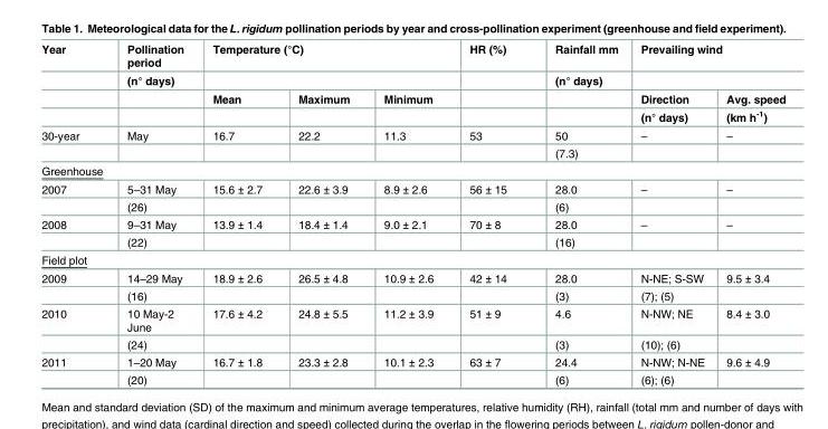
<table><thead><tr><td rowspan="4">Year</td><td rowspan="4">Pollination period (n° days)</td><td colspan="3">Temperature (°C)</td><td rowspan="4">HR (%)</td><td rowspan="4">Rainfall mm (n° days)</td><td colspan="2">Prevailing wind</td></tr><tr><td rowspan="3">Mean</td><td rowspan="3">Maximum</td><td rowspan="3">Minimum</td><td rowspan="3">Direction (n° days)</td><td rowspan="3">Avg. speed (km h<sup>-1</sup>)</td></tr><tr></tr><tr></tr></thead><tbody><tr><td rowspan="2">30-year</td><td>May</td><td>16.7</td><td>22.2</td><td>11.3</td><td>53</td><td>50</td><td>–</td><td>–</td></tr><tr><td></td><td></td><td></td><td></td><td></td><td>(7.3)</td><td></td><td></td></tr><tr><td colspan="9">Greenhouse</td></tr><tr><td rowspan="2">2007</td><td>5–31 May</td><td>15.6 ± 2.7</td><td>22.6 ± 3.9</td><td>8.9 ± 2.6</td><td>56 ± 15</td><td>28.0</td><td>–</td><td>–</td></tr><tr><td>(26)</td><td></td><td></td><td></td><td></td><td>(6)</td><td></td><td></td></tr><tr><td rowspan="2">2008</td><td>9–31 May</td><td>13.9 ± 1.4</td><td>18.4 ± 1.4</td><td>9.0 ± 2.1</td><td>70 ± 8</td><td>28.0</td><td>–</td><td>–</td></tr><tr><td>(22)</td><td></td><td></td><td></td><td></td><td>(16)</td><td></td><td></td></tr><tr><td colspan="9">Field plot</td></tr><tr><td rowspan="2">2009</td><td>14–29 May</td><td>18.9 ± 2.6</td><td>26.5 ± 4.8</td><td>10.9 ± 2.6</td><td>42 ± 14</td><td>28.0</td><td>N-NE; S-SW</td><td>9.5 ± 3.4</td></tr><tr><td>(16)</td><td></td><td></td><td></td><td></td><td>(3)</td><td>(7); (5)</td><td></td></tr><tr><td rowspan="2">2010</td><td>10 May-2 June</td><td>17.6 ± 4.2</td><td>24.8 ± 5.5</td><td>11.2 ± 3.9</td><td>51 ± 9</td><td>4.6</td><td>N-NW; NE</td><td>8.4 ± 3.0</td></tr><tr><td>(24)</td><td></td><td></td><td></td><td></td><td>(3)</td><td>(10); (6)</td><td></td></tr><tr><td rowspan="2">2011</td><td>1–20 May</td><td>16.7 ± 1.8</td><td>23.3 ± 2.8</td><td>10.1 ± 2.3</td><td>63 ± 7</td><td>24.4</td><td>N-NW; N-NE</td><td>9.6 ± 4.9</td></tr><tr><td>(20)</td><td></td><td></td><td></td><td></td><td>(6)</td><td>(6); (6)</td><td></td></tr></tbody></table>